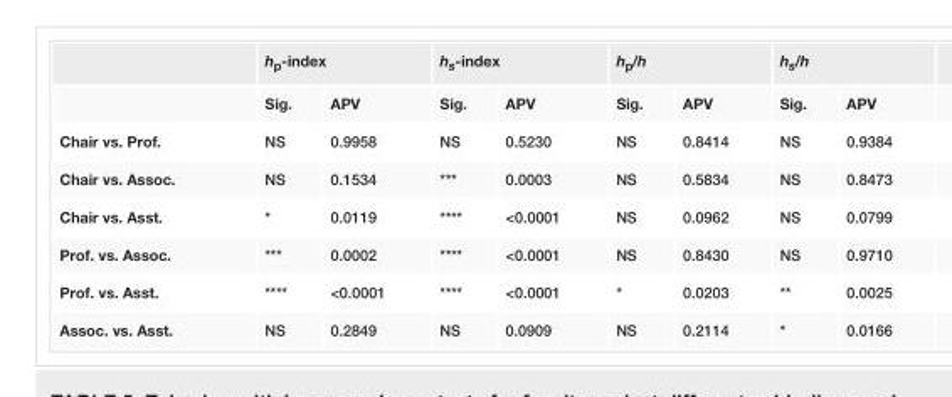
<table><thead><tr><td rowspan="2"></td><td colspan="2">h<sub>p</sub>-index</td><td colspan="2">h<sub>s</sub>-index</td><td colspan="2">h<sub>p</sub>/h</td><td colspan="2">h<sub>s</sub>/h</td></tr><tr><td>Sig.</td><td>APV</td><td>Sig.</td><td>APV</td><td>Sig.</td><td>APV</td><td>Sig.</td><td>APV</td></tr></thead><tbody><tr><td>Chair vs. Prof.</td><td>NS</td><td>0.9958</td><td>NS</td><td>0.5230</td><td>NS</td><td>0.8414</td><td>NS</td><td>0.9384</td></tr><tr><td>Chair vs. Assoc.</td><td>NS</td><td>0.1534</td><td>***</td><td>0.0003</td><td>NS</td><td>0.5834</td><td>NS</td><td>0.8473</td></tr><tr><td>Chair vs. Asst.</td><td>*</td><td>0.0119</td><td>****</td><td>&lt;0.0001</td><td>NS</td><td>0.0962</td><td>NS</td><td>0.0799</td></tr><tr><td>Prof. vs. Assoc.</td><td>***</td><td>0.0002</td><td>****</td><td>&lt;0.0001</td><td>NS</td><td>0.8430</td><td>NS</td><td>0.9710</td></tr><tr><td>Prof. vs. Asst.</td><td>****</td><td>&lt;0.0001</td><td>****</td><td>&lt;0.0001</td><td>*</td><td>0.0203</td><td>**</td><td>0.0025</td></tr><tr><td>Assoc. vs. Asst.</td><td>NS</td><td>0.2849</td><td>NS</td><td>0.0909</td><td>NS</td><td>0.2114</td><td>*</td><td>0.0166</td></tr></tbody></table>